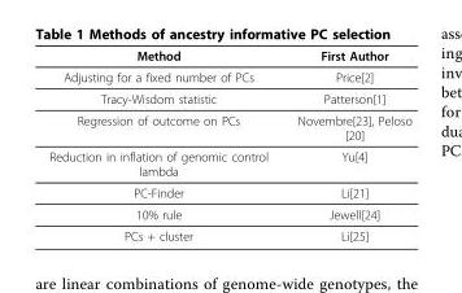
<table><thead><tr><td>Method</td><td>First Author</td></tr></thead><tbody><tr><td>Adjusting for a fixed number of PCs</td><td>Price[2]</td></tr><tr><td>Tracy-Wisdom statistic</td><td>Patterson[1]</td></tr><tr><td>Regression of outcome on PCs</td><td>Novembre[23], Peloso [20]</td></tr><tr><td>Reduction in inflation of genomic control lambda</td><td>Yu[4]</td></tr><tr><td>PC-Finder</td><td>Li[21]</td></tr><tr><td>10% rule</td><td>Jewell[24]</td></tr><tr><td>PCs + cluster</td><td>Li[25]</td></tr></tbody></table>